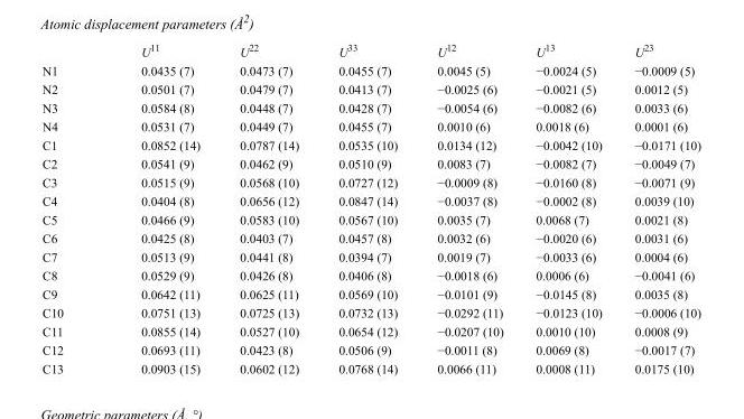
<table><thead><tr><td></td><td>U<sup>11</sup></td><td>U<sup>22</sup></td><td>U<sup>33</sup></td><td>U<sup>12</sup></td><td>U<sup>13</sup></td><td>U<sup>23</sup></td></tr></thead><tbody><tr><td>N1</td><td>0.0435 (7)</td><td>0.0473 (7)</td><td>0.0455 (7)</td><td>0.0045 (5)</td><td>−0.0024 (5)</td><td>−0.0009 (5)</td></tr><tr><td>N2</td><td>0.0501 (7)</td><td>0.0479 (7)</td><td>0.0413 (7)</td><td>−0.0025 (6)</td><td>−0.0021 (5)</td><td>0.0012 (5)</td></tr><tr><td>N3</td><td>0.0584 (8)</td><td>0.0448 (7)</td><td>0.0428 (7)</td><td>−0.0054 (6)</td><td>−0.0082 (6)</td><td>0.0033 (6)</td></tr><tr><td>N4</td><td>0.0531 (7)</td><td>0.0449 (7)</td><td>0.0455 (7)</td><td>0.0010 (6)</td><td>0.0018 (6)</td><td>0.0001 (6)</td></tr><tr><td>C1</td><td>0.0852 (14)</td><td>0.0787 (14)</td><td>0.0535 (10)</td><td>0.0134 (12)</td><td>−0.0042 (10)</td><td>−0.0171 (10)</td></tr><tr><td>C2</td><td>0.0541 (9)</td><td>0.0462 (9)</td><td>0.0510 (9)</td><td>0.0083 (7)</td><td>−0.0082 (7)</td><td>−0.0049 (7)</td></tr><tr><td>C3</td><td>0.0515 (9)</td><td>0.0568 (10)</td><td>0.0727 (12)</td><td>−0.0009 (8)</td><td>−0.0160 (8)</td><td>−0.0071 (9)</td></tr><tr><td>C4</td><td>0.0404 (8)</td><td>0.0656 (12)</td><td>0.0847 (14)</td><td>−0.0037 (8)</td><td>−0.0002 (8)</td><td>0.0039 (10)</td></tr><tr><td>C5</td><td>0.0466 (9)</td><td>0.0583 (10)</td><td>0.0567 (10)</td><td>0.0035 (7)</td><td>0.0068 (7)</td><td>0.0021 (8)</td></tr><tr><td>C6</td><td>0.0425 (8)</td><td>0.0403 (7)</td><td>0.0457 (8)</td><td>0.0032 (6)</td><td>−0.0020 (6)</td><td>0.0031 (6)</td></tr><tr><td>C7</td><td>0.0513 (9)</td><td>0.0441 (8)</td><td>0.0394 (7)</td><td>0.0019 (7)</td><td>−0.0033 (6)</td><td>0.0004 (6)</td></tr><tr><td>C8</td><td>0.0529 (9)</td><td>0.0426 (8)</td><td>0.0406 (8)</td><td>−0.0018 (6)</td><td>0.0006 (6)</td><td>−0.0041 (6)</td></tr><tr><td>C9</td><td>0.0642 (11)</td><td>0.0625 (11)</td><td>0.0569 (10)</td><td>−0.0101 (9)</td><td>−0.0145 (8)</td><td>0.0035 (8)</td></tr><tr><td>C10</td><td>0.0751 (13)</td><td>0.0725 (13)</td><td>0.0732 (13)</td><td>−0.0292 (11)</td><td>−0.0123 (10)</td><td>−0.0006 (10)</td></tr><tr><td>C11</td><td>0.0855 (14)</td><td>0.0527 (10)</td><td>0.0654 (12)</td><td>−0.0207 (10)</td><td>0.0010 (10)</td><td>0.0008 (9)</td></tr><tr><td>C12</td><td>0.0693 (11)</td><td>0.0423 (8)</td><td>0.0506 (9)</td><td>−0.0011 (8)</td><td>0.0069 (8)</td><td>−0.0017 (7)</td></tr><tr><td>C13</td><td>0.0903 (15)</td><td>0.0602 (12)</td><td>0.0768 (14)</td><td>0.0066 (11)</td><td>0.0008 (11)</td><td>0.0175 (10)</td></tr></tbody></table>